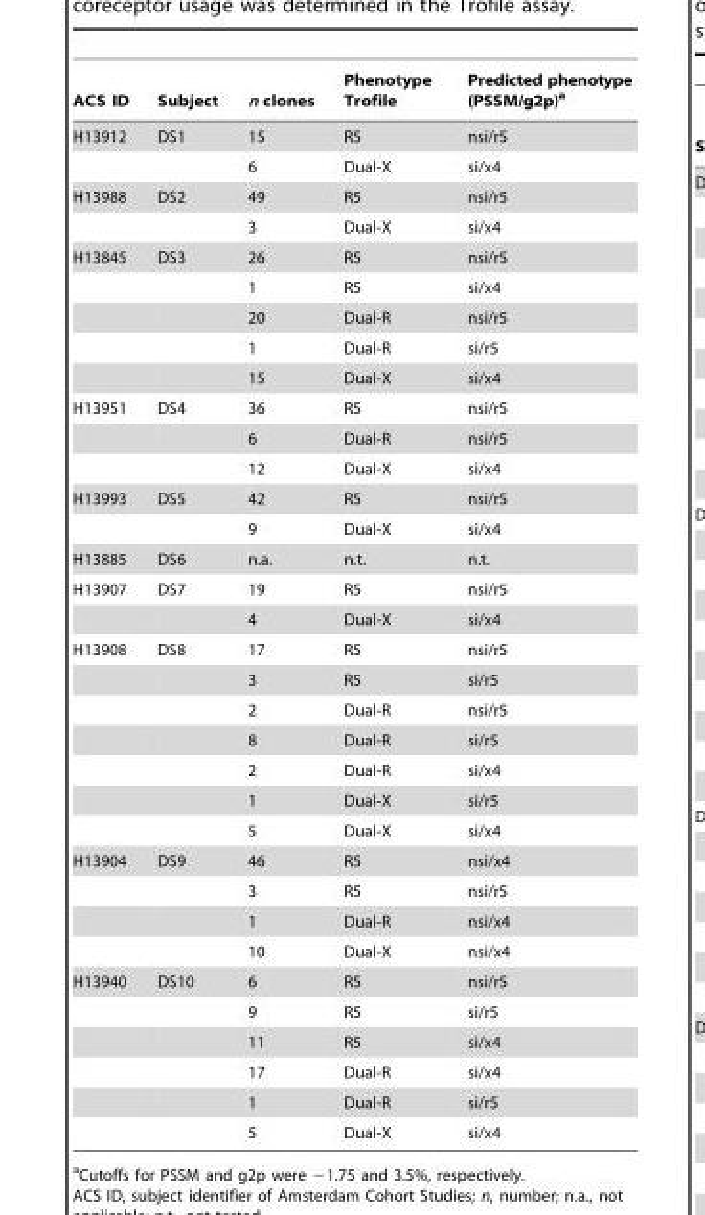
<table><thead><tr><td>ACS ID</td><td>Subject</td><td>n clones</td><td>Phenotype Trofile</td><td>Predicted phenotype (PSSM/g2p)<sup>a</sup></td></tr></thead><tbody><tr><td rowspan="2">H13912</td><td>DS1</td><td>15</td><td>R5</td><td>nsi/r5</td></tr><tr><td></td><td>6</td><td>Dual-X</td><td>si/x4</td></tr><tr><td rowspan="2">H13988</td><td>DS2</td><td>49</td><td>R5</td><td>nsi/r5</td></tr><tr><td></td><td>3</td><td>Dual-X</td><td>si/x4</td></tr><tr><td rowspan="5">H13845</td><td>DS3</td><td>26</td><td>R5</td><td>nsi/r5</td></tr><tr><td></td><td>1</td><td>R5</td><td>si/x4</td></tr><tr><td></td><td>20</td><td>Dual-R</td><td>nsi/r5</td></tr><tr><td></td><td>1</td><td>Dual-R</td><td>si/r5</td></tr><tr><td></td><td>15</td><td>Dual-X</td><td>si/x4</td></tr><tr><td rowspan="3">H13951</td><td>DS4</td><td>36</td><td>R5</td><td>nsi/r5</td></tr><tr><td></td><td>6</td><td>Dual-R</td><td>nsi/r5</td></tr><tr><td></td><td>12</td><td>Dual-X</td><td>si/x4</td></tr><tr><td rowspan="2">H13993</td><td>DS5</td><td>42</td><td>R5</td><td>nsi/r5</td></tr><tr><td></td><td>9</td><td>Dual-X</td><td>si/x4</td></tr><tr><td>H13885</td><td>DS6</td><td>n.a.</td><td>n.t.</td><td>n.t.</td></tr><tr><td rowspan="2">H13907</td><td>DS7</td><td>19</td><td>R5</td><td>nsi/r5</td></tr><tr><td></td><td>4</td><td>Dual-X</td><td>si/x4</td></tr><tr><td rowspan="7">H13908</td><td>DS8</td><td>17</td><td>R5</td><td>nsi/r5</td></tr><tr><td></td><td>3</td><td>R5</td><td>si/r5</td></tr><tr><td></td><td>2</td><td>Dual-R</td><td>nsi/r5</td></tr><tr><td></td><td>8</td><td>Dual-R</td><td>si/r5</td></tr><tr><td></td><td>2</td><td>Dual-R</td><td>si/x4</td></tr><tr><td></td><td>1</td><td>Dual-X</td><td>si/r5</td></tr><tr><td></td><td>5</td><td>Dual-X</td><td>si/x4</td></tr><tr><td rowspan="4">H13904</td><td>DS9</td><td>46</td><td>R5</td><td>nsi/x4</td></tr><tr><td></td><td>3</td><td>R5</td><td>nsi/r5</td></tr><tr><td></td><td>1</td><td>Dual-R</td><td>nsi/x4</td></tr><tr><td></td><td>10</td><td>Dual-X</td><td>nsi/x4</td></tr><tr><td rowspan="6">H13940</td><td>DS10</td><td>6</td><td>R5</td><td>nsi/r5</td></tr><tr><td></td><td>9</td><td>R5</td><td>si/r5</td></tr><tr><td></td><td>11</td><td>R5</td><td>si/x4</td></tr><tr><td></td><td>17</td><td>Dual-R</td><td>si/x4</td></tr><tr><td></td><td>1</td><td>Dual-R</td><td>si/r5</td></tr><tr><td></td><td>5</td><td>Dual-X</td><td>si/x4</td></tr></tbody></table>